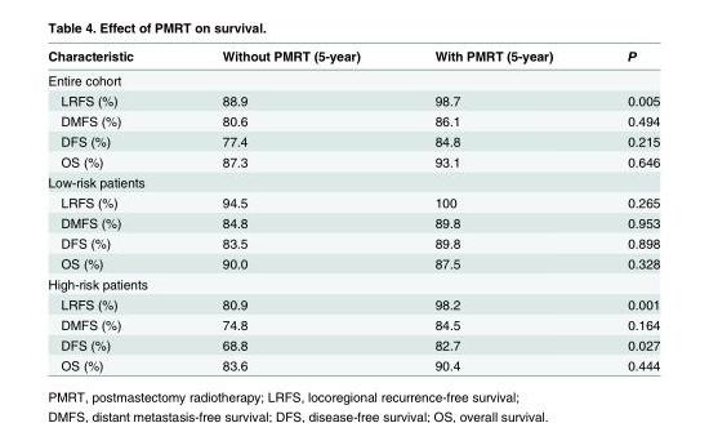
<table><thead><tr><td>Characteristic</td><td>Without PMRT (5-year)</td><td>With PMRT (5-year)</td><td>P</td></tr></thead><tbody><tr><td colspan="4">Entire cohort</td></tr><tr><td>LRFS (%)</td><td>88.9</td><td>98.7</td><td>0.005</td></tr><tr><td>DMFS (%)</td><td>80.6</td><td>86.1</td><td>0.494</td></tr><tr><td>DFS (%)</td><td>77.4</td><td>84.8</td><td>0.215</td></tr><tr><td>OS (%)</td><td>87.3</td><td>93.1</td><td>0.646</td></tr><tr><td colspan="4">Low-risk patients</td></tr><tr><td>LRFS (%)</td><td>94.5</td><td>100</td><td>0.265</td></tr><tr><td>DMFS (%)</td><td>84.8</td><td>89.8</td><td>0.953</td></tr><tr><td>DFS (%)</td><td>83.5</td><td>89.8</td><td>0.898</td></tr><tr><td>OS (%)</td><td>90.0</td><td>87.5</td><td>0.328</td></tr><tr><td colspan="4">High-risk patients</td></tr><tr><td>LRFS (%)</td><td>80.9</td><td>98.2</td><td>0.001</td></tr><tr><td>DMFS (%)</td><td>74.8</td><td>84.5</td><td>0.164</td></tr><tr><td>DFS (%)</td><td>68.8</td><td>82.7</td><td>0.027</td></tr><tr><td>OS (%)</td><td>83.6</td><td>90.4</td><td>0.444</td></tr></tbody></table>